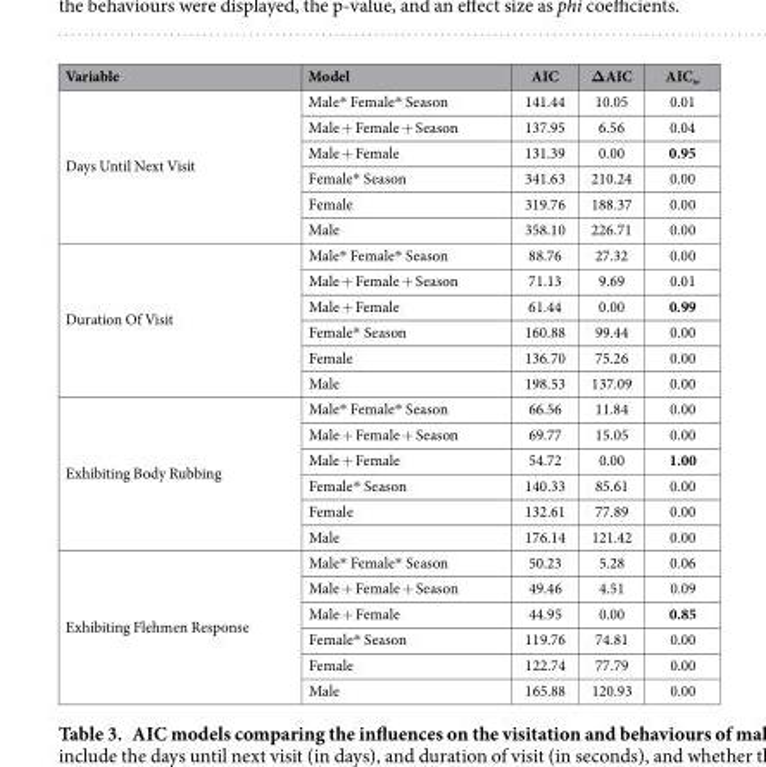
<table><thead><tr><td>Variable</td><td>Model</td><td>AIC</td><td>ΔAIC</td><td>AIC<sub>w</sub></td></tr></thead><tbody><tr><td rowspan="6">Days Until Next Visit</td><td>Male* Female* Season</td><td>141.44</td><td>10.05</td><td>0.01</td></tr><tr><td>Male + Female + Season</td><td>137.95</td><td>6.56</td><td>0.04</td></tr><tr><td>Male + Female</td><td>131.39</td><td>0.00</td><td>0.95</td></tr><tr><td>Female* Season</td><td>341.63</td><td>210.24</td><td>0.00</td></tr><tr><td>Female</td><td>319.76</td><td>188.37</td><td>0.00</td></tr><tr><td>Male</td><td>358.10</td><td>226.71</td><td>0.00</td></tr><tr><td rowspan="6">Duration Of Visit</td><td>Male* Female* Season</td><td>88.76</td><td>27.32</td><td>0.00</td></tr><tr><td>Male + Female + Season</td><td>71.13</td><td>9.69</td><td>0.01</td></tr><tr><td>Male + Female</td><td>61.44</td><td>0.00</td><td>0.99</td></tr><tr><td>Female* Season</td><td>160.88</td><td>99.44</td><td>0.00</td></tr><tr><td>Female</td><td>136.70</td><td>75.26</td><td>0.00</td></tr><tr><td>Male</td><td>198.53</td><td>137.09</td><td>0.00</td></tr><tr><td rowspan="6">Exhibiting Body Rubbing</td><td>Male* Female* Season</td><td>66.56</td><td>11.84</td><td>0.00</td></tr><tr><td>Male + Female + Season</td><td>69.77</td><td>15.05</td><td>0.00</td></tr><tr><td>Male + Female</td><td>54.72</td><td>0.00</td><td>1.00</td></tr><tr><td>Female* Season</td><td>140.33</td><td>85.61</td><td>0.00</td></tr><tr><td>Female</td><td>132.61</td><td>77.89</td><td>0.00</td></tr><tr><td>Male</td><td>176.14</td><td>121.42</td><td>0.00</td></tr><tr><td rowspan="6">Exhibiting Flehmen Response</td><td>Male* Female* Season</td><td>50.23</td><td>5.28</td><td>0.06</td></tr><tr><td>Male + Female + Season</td><td>49.46</td><td>4.51</td><td>0.09</td></tr><tr><td>Male + Female</td><td>44.95</td><td>0.00</td><td>0.85</td></tr><tr><td>Female* Season</td><td>119.76</td><td>74.81</td><td>0.00</td></tr><tr><td>Female</td><td>122.74</td><td>77.79</td><td>0.00</td></tr><tr><td>Male</td><td>165.88</td><td>120.93</td><td>0.00</td></tr></tbody></table>